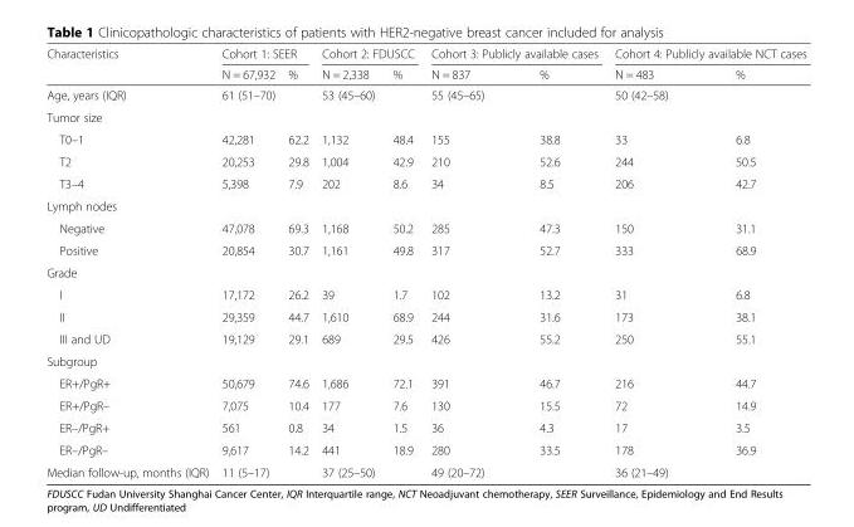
<table><thead><tr><td rowspan="2">Characteristics</td><td colspan="2">Cohort 1: SEER</td><td colspan="2">Cohort 2: FDUSCC</td><td colspan="2">Cohort 3: Publicly available cases</td><td colspan="2">Cohort 4: Publicly available NCT cases</td></tr><tr><td>N = 67,932</td><td>%</td><td>N = 2,338</td><td>%</td><td>N = 837</td><td>%</td><td>N = 483</td><td>%</td></tr></thead><tbody><tr><td>Age, years (IQR)</td><td>61 (51–70)</td><td></td><td>53 (45–60)</td><td></td><td>55 (45–65)</td><td></td><td>50 (42–58)</td><td></td></tr><tr><td colspan="9">Tumor size</td></tr><tr><td>T0–1</td><td>42,281</td><td>62.2</td><td>1,132</td><td>48.4</td><td>155</td><td>38.8</td><td>33</td><td>6.8</td></tr><tr><td>T2</td><td>20,253</td><td>29.8</td><td>1,004</td><td>42.9</td><td>210</td><td>52.6</td><td>244</td><td>50.5</td></tr><tr><td>T3–4</td><td>5,398</td><td>7.9</td><td>202</td><td>8.6</td><td>34</td><td>8.5</td><td>206</td><td>42.7</td></tr><tr><td colspan="9">Lymph nodes</td></tr><tr><td>Negative</td><td>47,078</td><td>69.3</td><td>1,168</td><td>50.2</td><td>285</td><td>47.3</td><td>150</td><td>31.1</td></tr><tr><td>Positive</td><td>20,854</td><td>30.7</td><td>1,161</td><td>49.8</td><td>317</td><td>52.7</td><td>333</td><td>68.9</td></tr><tr><td colspan="9">Grade</td></tr><tr><td>I</td><td>17,172</td><td>26.2</td><td>39</td><td>1.7</td><td>102</td><td>13.2</td><td>31</td><td>6.8</td></tr><tr><td>II</td><td>29,359</td><td>44.7</td><td>1,610</td><td>68.9</td><td>244</td><td>31.6</td><td>173</td><td>38.1</td></tr><tr><td>III and UD</td><td>19,129</td><td>29.1</td><td>689</td><td>29.5</td><td>426</td><td>55.2</td><td>250</td><td>55.1</td></tr><tr><td colspan="9">Subgroup</td></tr><tr><td>ER+/PgR+</td><td>50,679</td><td>74.6</td><td>1,686</td><td>72.1</td><td>391</td><td>46.7</td><td>216</td><td>44.7</td></tr><tr><td>ER+/PgR–</td><td>7,075</td><td>10.4</td><td>177</td><td>7.6</td><td>130</td><td>15.5</td><td>72</td><td>14.9</td></tr><tr><td>ER–/PgR+</td><td>561</td><td>0.8</td><td>34</td><td>1.5</td><td>36</td><td>4.3</td><td>17</td><td>3.5</td></tr><tr><td>ER–/PgR–</td><td>9,617</td><td>14.2</td><td>441</td><td>18.9</td><td>280</td><td>33.5</td><td>178</td><td>36.9</td></tr><tr><td>Median follow-up, months (IQR)</td><td>11 (5–17)</td><td></td><td>37 (25–50)</td><td></td><td>49 (20–72)</td><td></td><td>36 (21–49)</td><td></td></tr></tbody></table>